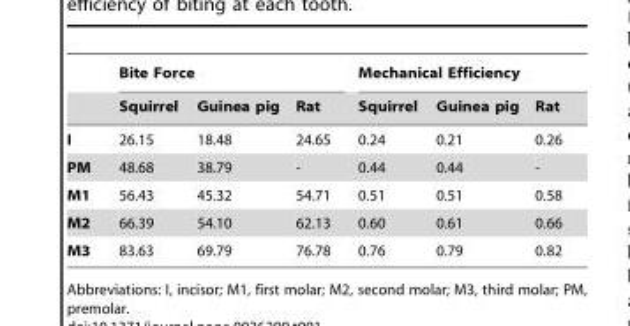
<table><thead><tr><td rowspan="2"></td><td colspan="3">Bite Force</td><td colspan="3">Mechanical Efficiency</td></tr><tr><td>Squirrel</td><td>Guinea pig</td><td>Rat</td><td>Squirrel</td><td>Guinea pig</td><td>Rat</td></tr></thead><tbody><tr><td>I</td><td>26.15</td><td>18.48</td><td>24.65</td><td>0.24</td><td>0.21</td><td>0.26</td></tr><tr><td>PM</td><td>48.68</td><td>38.79</td><td>-</td><td>0.44</td><td>0.44</td><td>-</td></tr><tr><td>M1</td><td>56.43</td><td>45.32</td><td>54.71</td><td>0.51</td><td>0.51</td><td>0.58</td></tr><tr><td>M2</td><td>66.39</td><td>54.10</td><td>62.13</td><td>0.60</td><td>0.61</td><td>0.66</td></tr><tr><td>M3</td><td>83.63</td><td>69.79</td><td>76.78</td><td>0.76</td><td>0.79</td><td>0.82</td></tr></tbody></table>